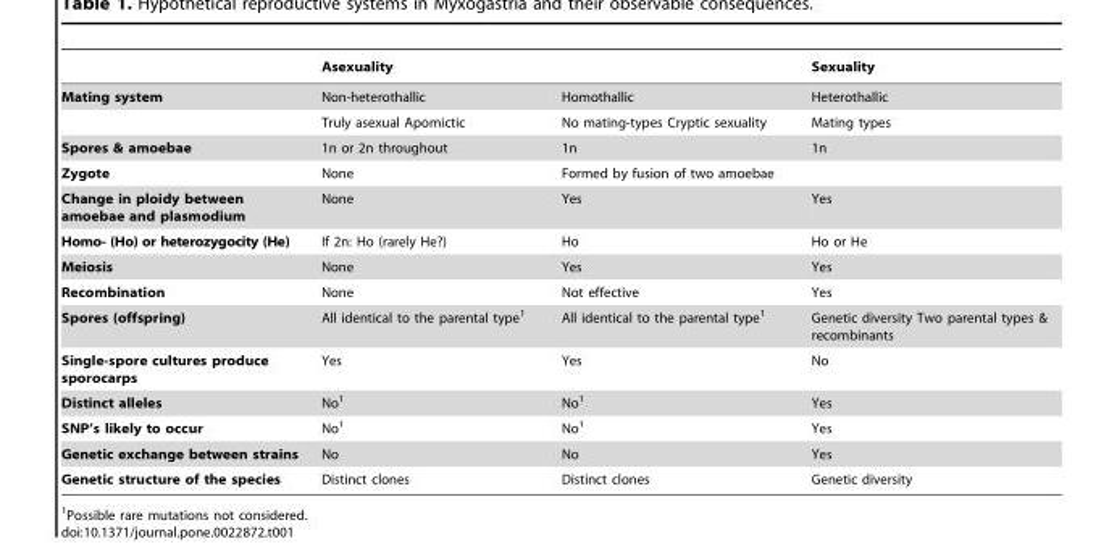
<table><thead><tr><td></td><td>Asexuality</td><td></td><td>Sexuality</td></tr></thead><tbody><tr><td rowspan="2">Mating system</td><td>Non-heterothallic</td><td>Homothallic</td><td>Heterothallic</td></tr><tr><td>Truly asexual Apomictic</td><td>No mating-types Cryptic sexuality</td><td>Mating types</td></tr><tr><td>Spores &amp; amoebae</td><td>1n or 2n throughout</td><td>1n</td><td>1n</td></tr><tr><td>Zygote</td><td>None</td><td>Formed by fusion of two amoebae</td><td></td></tr><tr><td>Change in ploidy between amoebae and plasmodium</td><td>None</td><td>Yes</td><td>Yes</td></tr><tr><td>Homo- (Ho) or heterozygocity (He)</td><td>If 2n: Ho (rarely He?)</td><td>Ho</td><td>Ho or He</td></tr><tr><td>Meiosis</td><td>None</td><td>Yes</td><td>Yes</td></tr><tr><td>Recombination</td><td>None</td><td>Not effective</td><td>Yes</td></tr><tr><td>Spores (offspring)</td><td>All identical to the parental type<sup>1</sup></td><td>All identical to the parental type<sup>1</sup></td><td>Genetic diversity Two parental types &amp; recombinants</td></tr><tr><td>Single-spore cultures produce sporocarps</td><td>Yes</td><td>Yes</td><td>No</td></tr><tr><td>Distinct alleles</td><td>No<sup>1</sup></td><td>No<sup>1</sup></td><td>Yes</td></tr><tr><td>SNP’s likely to occur</td><td>No<sup>1</sup></td><td>No<sup>1</sup></td><td>Yes</td></tr><tr><td>Genetic exchange between strains</td><td>No</td><td>No</td><td>Yes</td></tr><tr><td>Genetic structure of the species</td><td>Distinct clones</td><td>Distinct clones</td><td>Genetic diversity</td></tr></tbody></table>